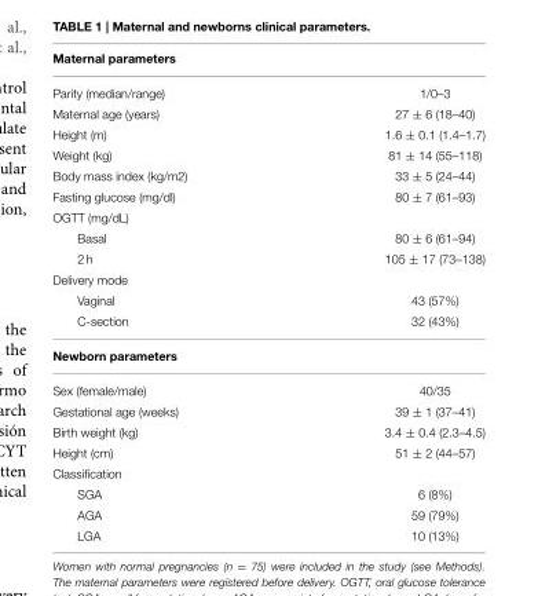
<table><thead><tr><td>Maternal parameters</td><td></td></tr></thead><tbody><tr><td>Parity (median/range)</td><td>1/0–3</td></tr><tr><td>Maternal age (years)</td><td>27 ± 6 (18–40)</td></tr><tr><td>Height (m)</td><td>1.6 ± 0.1 (1.4–1.7)</td></tr><tr><td>Weight (kg)</td><td>81 ± 14 (55–118)</td></tr><tr><td>Body mass index (kg/m2)</td><td>33 ± 5 (24–44)</td></tr><tr><td>Fasting glucose (mg/dl)</td><td>80 ± 7 (61–93)</td></tr><tr><td colspan="2">OGTT (mg/dL)</td></tr><tr><td>Basal</td><td>80 ± 6 (61–94)</td></tr><tr><td>2 h</td><td>105 ± 17 (73–138)</td></tr><tr><td colspan="2">Delivery mode</td></tr><tr><td>Vaginal</td><td>43 (57%)</td></tr><tr><td>C-section</td><td>32 (43%)</td></tr><tr><td colspan="2">Newborn parameters</td></tr><tr><td>Sex (female/male)</td><td>40/35</td></tr><tr><td>Gestational age (weeks)</td><td>39 ± 1 (37–41)</td></tr><tr><td>Birth weight (kg)</td><td>3.4 ± 0.4 (2.3–4.5)</td></tr><tr><td>Height (cm)</td><td>51 ± 2 (44–57)</td></tr><tr><td colspan="2">Classification</td></tr><tr><td>SGA</td><td>6 (8%)</td></tr><tr><td>AGA</td><td>59 (79%)</td></tr><tr><td>LGA</td><td>10 (13%)</td></tr></tbody></table>